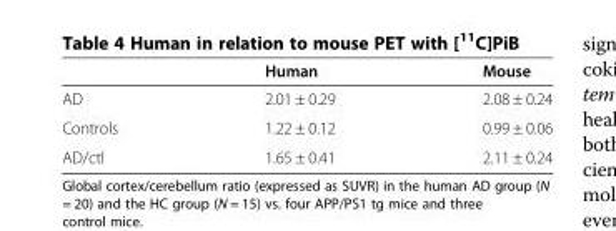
<table><thead><tr><td></td><td>Human</td><td>Mouse</td></tr></thead><tbody><tr><td>AD</td><td>2.01 ± 0.29</td><td>2.08 ± 0.24</td></tr><tr><td>Controls</td><td>1.22 ± 0.12</td><td>0.99 ± 0.06</td></tr><tr><td>AD/ctl</td><td>1.65 ± 0.41</td><td>2.11 ± 0.24</td></tr></tbody></table>